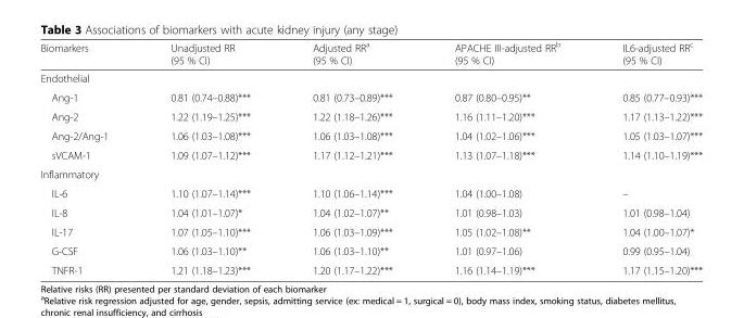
<table><thead><tr><td>Biomarkers</td><td>Unadjusted RR (95 % CI)</td><td>Adjusted RR<sup>a</sup> (95 % CI)</td><td>APACHE III-adjusted RR<sup>b</sup> (95 % CI)</td><td>IL6-adjusted RR<sup>c</sup> (95 % CI)</td></tr></thead><tbody><tr><td colspan="5">Endothelial</td></tr><tr><td>Ang-1</td><td>0.81 (0.74–0.88)***</td><td>0.81 (0.73–0.89)***</td><td>0.87 (0.80–0.95)**</td><td>0.85 (0.77–0.93)***</td></tr><tr><td>Ang-2</td><td>1.22 (1.19–1.25)***</td><td>1.22 (1.18–1.26)***</td><td>1.16 (1.11–1.20)***</td><td>1.17 (1.13–1.22)***</td></tr><tr><td>Ang-2/Ang-1</td><td>1.06 (1.03–1.08)***</td><td>1.06 (1.03–1.08)***</td><td>1.04 (1.02–1.06)***</td><td>1.05 (1.03–1.07)***</td></tr><tr><td>sVCAM-1</td><td>1.09 (1.07–1.12)***</td><td>1.17 (1.12–1.21)***</td><td>1.13 (1.07–1.18)***</td><td>1.14 (1.10–1.19)***</td></tr><tr><td colspan="5">Inflammatory</td></tr><tr><td>IL-6</td><td>1.10 (1.07–1.14)***</td><td>1.10 (1.06–1.14)***</td><td>1.04 (1.00–1.08)</td><td>–</td></tr><tr><td>IL-8</td><td>1.04 (1.01–1.07)*</td><td>1.04 (1.02–1.07)**</td><td>1.01 (0.98–1.03)</td><td>1.01 (0.98–1.04)</td></tr><tr><td>IL-17</td><td>1.07 (1.05–1.10)***</td><td>1.06 (1.03–1.09)***</td><td>1.05 (1.02–1.08)**</td><td>1.04 (1.00–1.07)*</td></tr><tr><td>G-CSF</td><td>1.06 (1.03–1.10)**</td><td>1.06 (1.03–1.10)**</td><td>1.01 (0.97–1.06)</td><td>0.99 (0.95–1.04)</td></tr><tr><td>TNFR-1</td><td>1.21 (1.18–1.23)***</td><td>1.20 (1.17–1.22)***</td><td>1.16 (1.14–1.19)***</td><td>1.17 (1.15–1.20)***</td></tr></tbody></table>